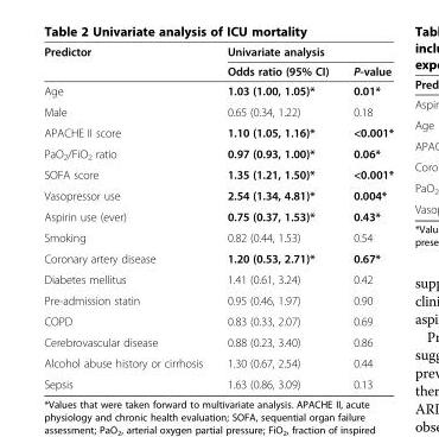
<table><thead><tr><td rowspan="2">Predictor</td><td colspan="2">Univariate analysis</td></tr><tr><td>Odds ratio (95% CI)</td><td>P-value</td></tr></thead><tbody><tr><td>Age</td><td>1.03 (1.00, 1.05)*</td><td>0.01*</td></tr><tr><td>Male</td><td>0.65 (0.34, 1.22)</td><td>0.18</td></tr><tr><td>APACHE II score</td><td>1.10 (1.05, 1.16)*</td><td>&lt;0.001*</td></tr><tr><td>PaO<sub>2</sub>/FiO<sub>2</sub> ratio</td><td>0.97 (0.93, 1.00)*</td><td>0.06*</td></tr><tr><td>SOFA score</td><td>1.35 (1.21, 1.50)*</td><td>&lt;0.001*</td></tr><tr><td>Vasopressor use</td><td>2.54 (1.34, 4.81)*</td><td>0.004*</td></tr><tr><td>Aspirin use (ever)</td><td>0.75 (0.37, 1.53)*</td><td>0.43*</td></tr><tr><td>Smoking</td><td>0.82 (0.44, 1.53)</td><td>0.54</td></tr><tr><td>Coronary artery disease</td><td>1.20 (0.53, 2.71)*</td><td>0.67*</td></tr><tr><td>Diabetes mellitus</td><td>1.41 (0.61, 3.24)</td><td>0.42</td></tr><tr><td>Pre-admission statin</td><td>0.95 (0.46, 1.97)</td><td>0.90</td></tr><tr><td>COPD</td><td>0.83 (0.33, 2.07)</td><td>0.69</td></tr><tr><td>Cerebrovascular disease</td><td>0.88 (0.23, 3.40)</td><td>0.86</td></tr><tr><td>Alcohol abuse history or cirrhosis</td><td>1.30 (0.67, 2.54)</td><td>0.44</td></tr><tr><td>Sepsis</td><td>1.63 (0.86, 3.09)</td><td>0.13</td></tr></tbody></table>